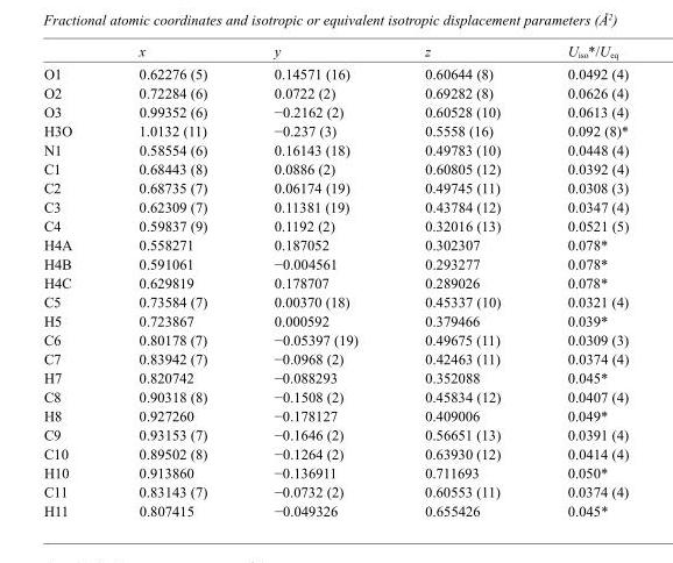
<table><thead><tr><td></td><td>x</td><td>y</td><td>z</td><td>U<sub>iso</sub>*/U<sub>eq</sub></td></tr></thead><tbody><tr><td>O1</td><td>0.62276 (5)</td><td>0.14571 (16)</td><td>0.60644 (8)</td><td>0.0492 (4)</td></tr><tr><td>O2</td><td>0.72284 (6)</td><td>0.0722 (2)</td><td>0.69282 (8)</td><td>0.0626 (4)</td></tr><tr><td>O3</td><td>0.99352 (6)</td><td>−0.2162 (2)</td><td>0.60528 (10)</td><td>0.0613 (4)</td></tr><tr><td>H3O</td><td>1.0132 (11)</td><td>−0.237 (3)</td><td>0.5558 (16)</td><td>0.092 (8)*</td></tr><tr><td>N1</td><td>0.58554 (6)</td><td>0.16143 (18)</td><td>0.49783 (10)</td><td>0.0448 (4)</td></tr><tr><td>C1</td><td>0.68443 (8)</td><td>0.0886 (2)</td><td>0.60805 (12)</td><td>0.0392 (4)</td></tr><tr><td>C2</td><td>0.68735 (7)</td><td>0.06174 (19)</td><td>0.49745 (11)</td><td>0.0308 (3)</td></tr><tr><td>C3</td><td>0.62309 (7)</td><td>0.11381 (19)</td><td>0.43784 (12)</td><td>0.0347 (4)</td></tr><tr><td>C4</td><td>0.59837 (9)</td><td>0.1192 (2)</td><td>0.32016 (13)</td><td>0.0521 (5)</td></tr><tr><td>H4A</td><td>0.558271</td><td>0.187052</td><td>0.302307</td><td>0.078*</td></tr><tr><td>H4B</td><td>0.591061</td><td>−0.004561</td><td>0.293277</td><td>0.078*</td></tr><tr><td>H4C</td><td>0.629819</td><td>0.178707</td><td>0.289026</td><td>0.078*</td></tr><tr><td>C5</td><td>0.73584 (7)</td><td>0.00370 (18)</td><td>0.45337 (10)</td><td>0.0321 (4)</td></tr><tr><td>H5</td><td>0.723867</td><td>0.000592</td><td>0.379466</td><td>0.039*</td></tr><tr><td>C6</td><td>0.80178 (7)</td><td>−0.05397 (19)</td><td>0.49675 (11)</td><td>0.0309 (3)</td></tr><tr><td>C7</td><td>0.83942 (7)</td><td>−0.0968 (2)</td><td>0.42463 (11)</td><td>0.0374 (4)</td></tr><tr><td>H7</td><td>0.820742</td><td>−0.088293</td><td>0.352088</td><td>0.045*</td></tr><tr><td>C8</td><td>0.90318 (8)</td><td>−0.1508 (2)</td><td>0.45834 (12)</td><td>0.0407 (4)</td></tr><tr><td>H8</td><td>0.927260</td><td>−0.178127</td><td>0.409006</td><td>0.049*</td></tr><tr><td>C9</td><td>0.93153 (7)</td><td>−0.1646 (2)</td><td>0.56651 (13)</td><td>0.0391 (4)</td></tr><tr><td>C10</td><td>0.89502 (8)</td><td>−0.1264 (2)</td><td>0.63930 (12)</td><td>0.0414 (4)</td></tr><tr><td>H10</td><td>0.913860</td><td>−0.136911</td><td>0.711693</td><td>0.050*</td></tr><tr><td>C11</td><td>0.83143 (7)</td><td>−0.0732 (2)</td><td>0.60553 (11)</td><td>0.0374 (4)</td></tr><tr><td>H11</td><td>0.807415</td><td>−0.049326</td><td>0.655426</td><td>0.045*</td></tr></tbody></table>